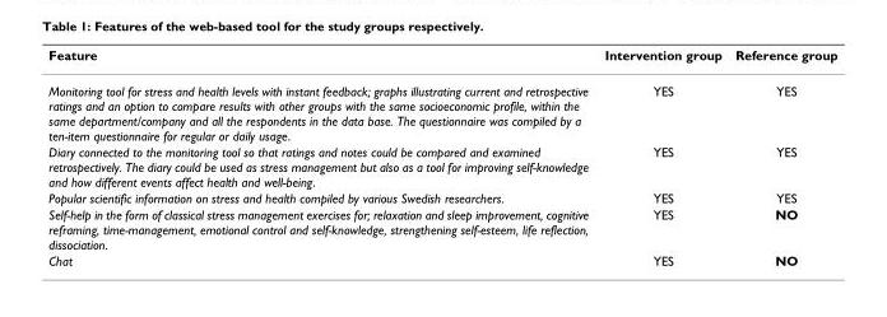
<table><thead><tr><td>Feature</td><td>Intervention group</td><td>Reference group</td></tr></thead><tbody><tr><td>Monitoring tool for stress and health levels with instant feedback; graphs illustrating current and retrospective ratings and an option to compare results with other groups with the same socioeconomic profile, within the same department/company and all the respondents in the data base. The questionnaire was compiled by a ten-item questionnaire for regular or daily usage.</td><td>YES</td><td>YES</td></tr><tr><td>Diary connected to the monitoring tool so that ratings and notes could be compared and examined retrospectively. The diary could be used as stress management but also as a tool for improving self-knowledge and how different events affect health and well-being.</td><td>YES</td><td>YES</td></tr><tr><td>Popular scientific information on stress and health compiled by various Swedish researchers.</td><td>YES</td><td>YES</td></tr><tr><td>Self-help in the form of classical stress management exercises for; relaxation and sleep improvement, cognitive reframing, time-management, emotional control and self-knowledge, strengthening self-esteem, life reflection, dissociation.</td><td>YES</td><td>NO</td></tr><tr><td>Chat</td><td>YES</td><td>NO</td></tr></tbody></table>